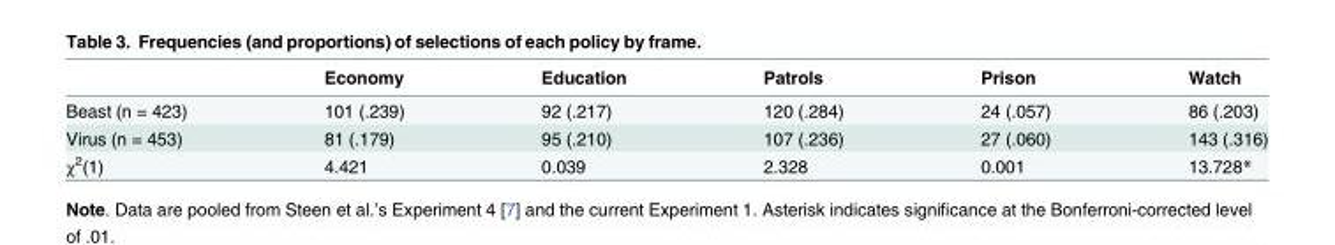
<table><thead><tr><td></td><td>Economy</td><td>Education</td><td>Patrols</td><td>Prison</td><td>Watch</td></tr></thead><tbody><tr><td>Beast (n = 423)</td><td>101 (.239)</td><td>92 (.217)</td><td>120 (.284)</td><td>24 (.057)</td><td>86 (.203)</td></tr><tr><td>Virus (n = 453)</td><td>81 (.179)</td><td>95 (.210)</td><td>107 (.236)</td><td>27 (.060)</td><td>143 (.316)</td></tr><tr><td>χ<sup>2</sup>(1)</td><td>4.421</td><td>0.039</td><td>2.328</td><td>0.001</td><td>13.728*</td></tr></tbody></table>